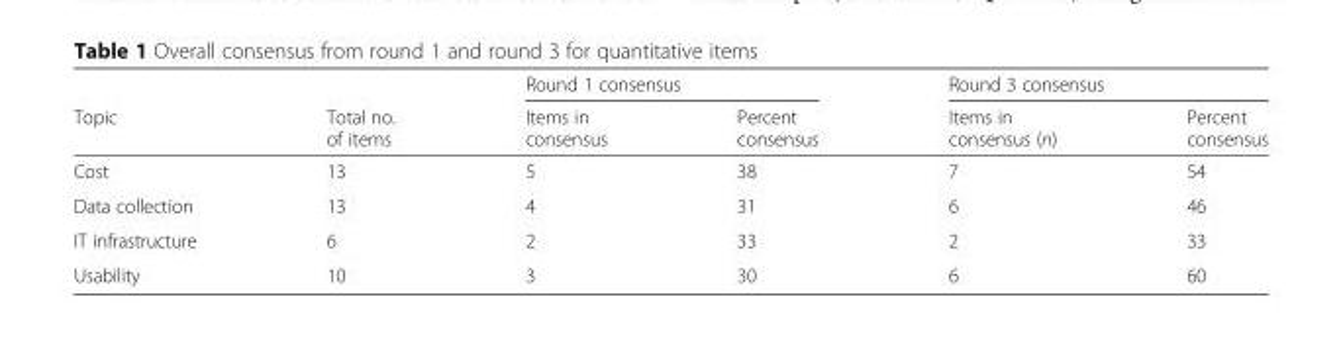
<table><thead><tr><td rowspan="2">Topic</td><td rowspan="2">Total no. of items</td><td colspan="2">Round 1 consensus</td><td colspan="2">Round 3 consensus</td></tr><tr><td>Items in consensus</td><td>Percent consensus</td><td>Items in consensus (n)</td><td>Percent consensus</td></tr></thead><tbody><tr><td>Cost</td><td>13</td><td>5</td><td>38</td><td>7</td><td>54</td></tr><tr><td>Data collection</td><td>13</td><td>4</td><td>31</td><td>6</td><td>46</td></tr><tr><td>IT infrastructure</td><td>6</td><td>2</td><td>33</td><td>2</td><td>33</td></tr><tr><td>Usability</td><td>10</td><td>3</td><td>30</td><td>6</td><td>60</td></tr></tbody></table>